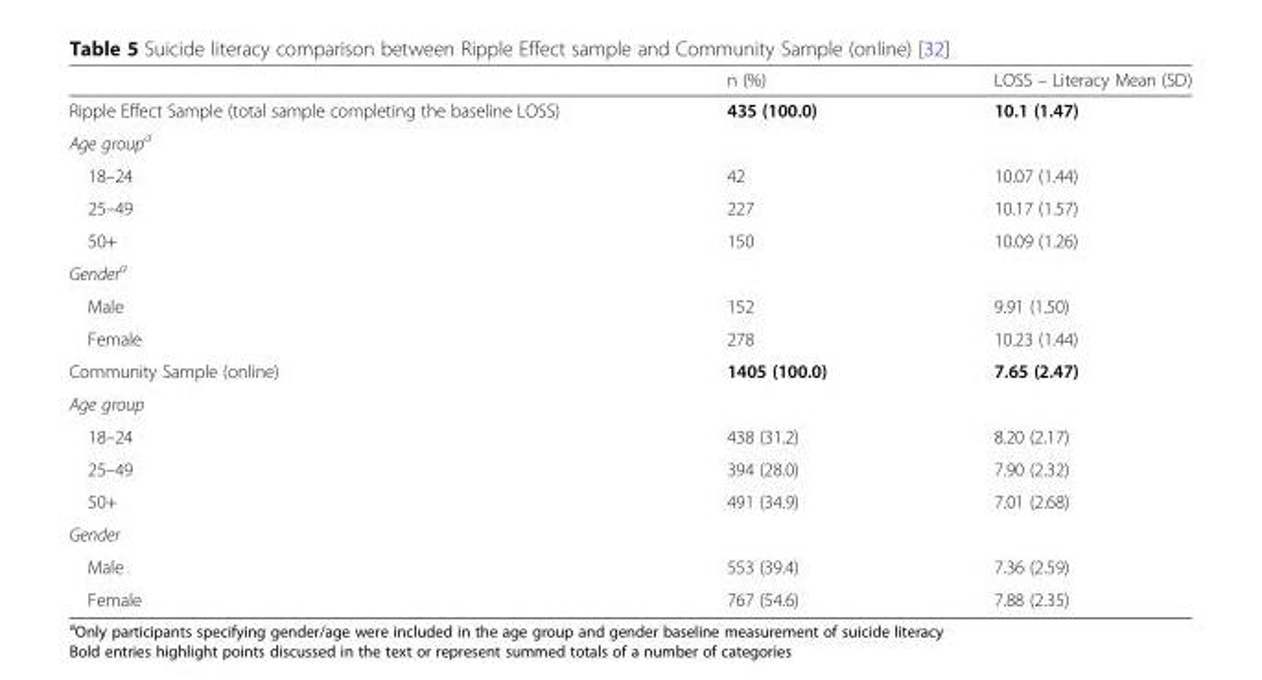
<table><thead><tr><td></td><td>n (%)</td><td>LOSS – Literacy Mean (SD)</td></tr></thead><tbody><tr><td>Ripple Effect Sample (total sample completing the baseline LOSS)</td><td>435 (100.0)</td><td>10.1 (1.47)</td></tr><tr><td colspan="3">Age group<sup>a</sup></td></tr><tr><td>18–24</td><td>42</td><td>10.07 (1.44)</td></tr><tr><td>25–49</td><td>227</td><td>10.17 (1.57)</td></tr><tr><td>50+</td><td>150</td><td>10.09 (1.26)</td></tr><tr><td colspan="3">Gender<sup>a</sup></td></tr><tr><td>Male</td><td>152</td><td>9.91 (1.50)</td></tr><tr><td>Female</td><td>278</td><td>10.23 (1.44)</td></tr><tr><td>Community Sample (online)</td><td>1405 (100.0)</td><td>7.65 (2.47)</td></tr><tr><td colspan="3">Age group</td></tr><tr><td>18–24</td><td>438 (31.2)</td><td>8.20 (2.17)</td></tr><tr><td>25–49</td><td>394 (28.0)</td><td>7.90 (2.32)</td></tr><tr><td>50+</td><td>491 (34.9)</td><td>7.01 (2.68)</td></tr><tr><td colspan="3">Gender</td></tr><tr><td>Male</td><td>553 (39.4)</td><td>7.36 (2.59)</td></tr><tr><td>Female</td><td>767 (54.6)</td><td>7.88 (2.35)</td></tr></tbody></table>